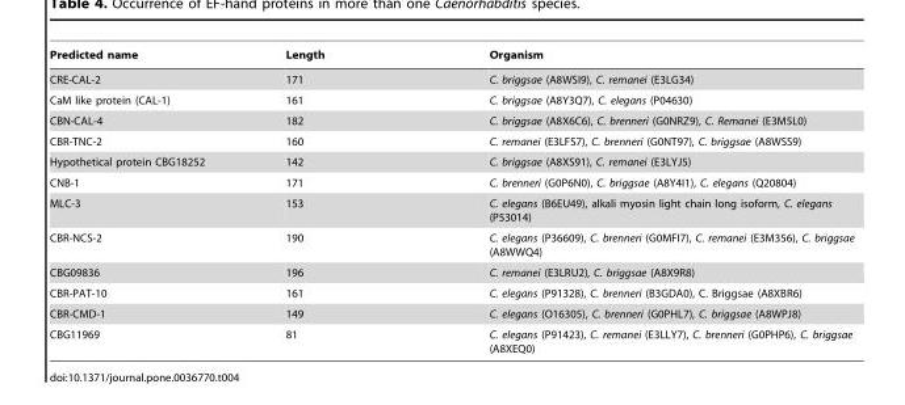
<table><thead><tr><td>Predicted name</td><td>Length</td><td>Organism</td></tr></thead><tbody><tr><td>CRE-CAL-2</td><td>171</td><td>C. briggsae (A8WSI9), C. remanei (E3LG34)</td></tr><tr><td>CaM like protein (CAL-1)</td><td>161</td><td>C. briggsae (A8Y3Q7), C. elegans (P04630)</td></tr><tr><td>CBN-CAL-4</td><td>182</td><td>C. briggsae (A8X6C6), C. brenneri (G0NRZ9), C. Remanei (E3M5L0)</td></tr><tr><td>CBR-TNC-2</td><td>160</td><td>C. remanei (E3LFS7), C. brenneri (G0NT97), C. briggsae (A8WSS9)</td></tr><tr><td>Hypothetical protein CBG18252</td><td>142</td><td>C. briggsae (A8XS91), C. remanei (E3LYJ5)</td></tr><tr><td>CNB-1</td><td>171</td><td>C. brenneri (G0P6N0), C. briggsae (A8Y4I1), C. elegans (Q20804)</td></tr><tr><td>MLC-3</td><td>153</td><td>C. elegans (B6EU49), alkali myosin light chain long isoform, C. elegans (P53014)</td></tr><tr><td>CBR-NCS-2</td><td>190</td><td>C. elegans (P36609), C. brenneri (G0MFI7), C. remanei (E3M356), C. briggsae (A8WWQ4)</td></tr><tr><td>CBG09836</td><td>196</td><td>C. remanei (E3LRU2), C. briggsae (A8X9R8)</td></tr><tr><td>CBR-PAT-10</td><td>161</td><td>C. elegans (P91328), C. brenneri (B3GDA0), C. Briggsae (A8XBR6)</td></tr><tr><td>CBR-CMD-1</td><td>149</td><td>C. elegans (O16305), C. brenneri (G0PHL7), C. briggsae (A8WPJ8)</td></tr><tr><td>CBG11969</td><td>81</td><td>C. elegans (P91423), C. remanei (E3LLY7), C. brenneri (G0PHP6), C. briggsae (A8XEQ0)</td></tr></tbody></table>